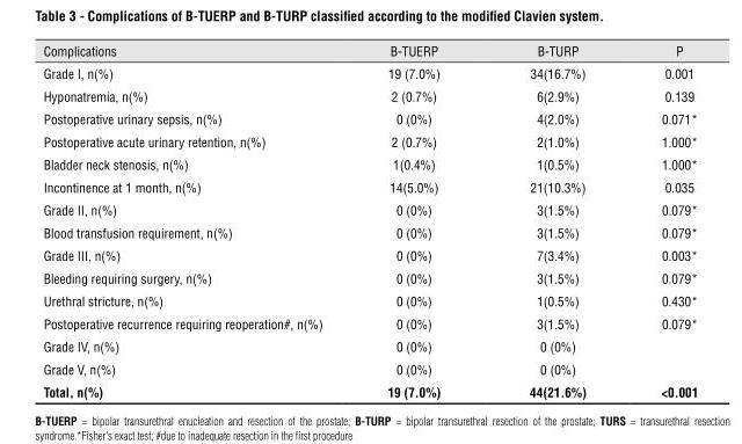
<table><thead><tr><td>Complications</td><td>B-TUERP</td><td>B-TURP</td><td>P</td></tr></thead><tbody><tr><td>Grade I, n(%)</td><td>19 (7.0%)</td><td>34(16.7%)</td><td>0.001</td></tr><tr><td>Hyponatremia, n(%)</td><td>2 (0.7%)</td><td>6(2.9%)</td><td>0.139</td></tr><tr><td>Postoperative urinary sepsis, n(%)</td><td>0 (0%)</td><td>4(2.0%)</td><td>0.071*</td></tr><tr><td>Postoperative acute urinary retention, n(%)</td><td>2 (0.7%)</td><td>2(1.0%)</td><td>1.000*</td></tr><tr><td>Bladder neck stenosis, n(%)</td><td>1(0.4%)</td><td>1(0.5%)</td><td>1.000*</td></tr><tr><td>Incontinence at 1 month, n(%)</td><td>14(5.0%)</td><td>21(10.3%)</td><td>0.035</td></tr><tr><td>Grade II, n(%)</td><td>0 (0%)</td><td>3(1.5%)</td><td>0.079*</td></tr><tr><td>Blood transfusion requirement, n(%)</td><td>0 (0%)</td><td>3(1.5%)</td><td>0.079*</td></tr><tr><td>Grade III, n(%)</td><td>0 (0%)</td><td>7(3.4%)</td><td>0.003*</td></tr><tr><td>Bleeding requiring surgery, n(%)</td><td>0 (0%)</td><td>3(1.5%)</td><td>0.079*</td></tr><tr><td>Urethral stricture, n(%)</td><td>0 (0%)</td><td>1(0.5%)</td><td>0.430*</td></tr><tr><td>Postoperative recurrence requiring reoperation#, n(%)</td><td>0 (0%)</td><td>3(1.5%)</td><td>0.079*</td></tr><tr><td>Grade IV, n(%)</td><td>0 (0%)</td><td>0 (0%)</td><td></td></tr><tr><td>Grade V, n(%)</td><td>0 (0%)</td><td>0 (0%)</td><td></td></tr><tr><td>Total, n(%)</td><td>19 (7.0%)</td><td>44(21.6%)</td><td>&lt;0.001</td></tr></tbody></table>